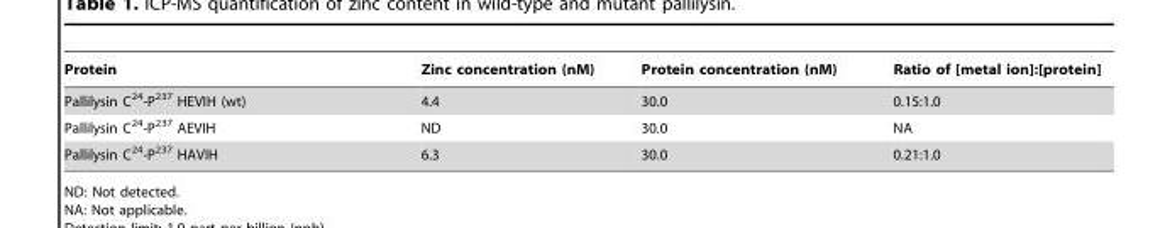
<table><thead><tr><td>Protein</td><td>Zinc concentration (nM)</td><td>Protein concentration (nM)</td><td>Ratio of [metal ion]:[protein]</td></tr></thead><tbody><tr><td>Pallilysin C<sup>24</sup>-P<sup>237</sup> HEVIH (wt)</td><td>4.4</td><td>30.0</td><td>0.15:1.0</td></tr><tr><td>Pallilysin C<sup>24</sup>-P<sup>237</sup> AEVIH</td><td>ND</td><td>30.0</td><td>NA</td></tr><tr><td>Pallilysin C<sup>24</sup>-P<sup>237</sup> HAVIH</td><td>6.3</td><td>30.0</td><td>0.21:1.0</td></tr></tbody></table>